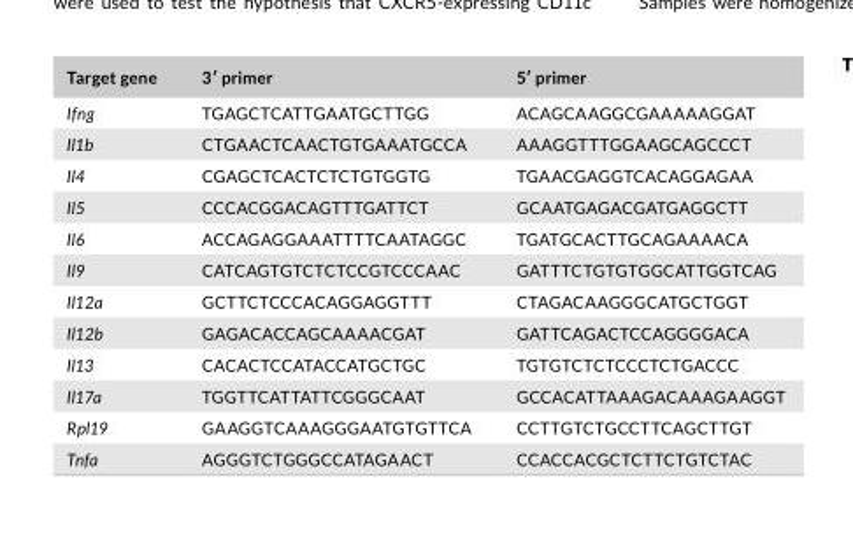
<table><thead><tr><td>Target gene</td><td>3′ primer</td><td>5′ primer</td></tr></thead><tbody><tr><td>Ifng</td><td>TGAGCTCATTGAATGCTTGG</td><td>ACAGCAAGGCGAAAAAGGAT</td></tr><tr><td>Il1b</td><td>CTGAACTCAACTGTGAAATGCCA</td><td>AAAGGTTTGGAAGCAGCCCT</td></tr><tr><td>Il4</td><td>CGAGCTCACTCTCTGTGGTG</td><td>TGAACGAGGTCACAGGAGAA</td></tr><tr><td>Il5</td><td>CCCACGGACAGTTTGATTCT</td><td>GCAATGAGACGATGAGGCTT</td></tr><tr><td>Il6</td><td>ACCAGAGGAAATTTTCAATAGGC</td><td>TGATGCACTTGCAGAAAACA</td></tr><tr><td>Il9</td><td>CATCAGTGTCTCTCCGTCCCAAC</td><td>GATTTCTGTGTGGCATTGGTCAG</td></tr><tr><td>Il12a</td><td>GCTTCTCCCACAGGAGGTTT</td><td>CTAGACAAGGGCATGCTGGT</td></tr><tr><td>Il12b</td><td>GAGACACCAGCAAAACGAT</td><td>GATTCAGACTCCAGGGGACA</td></tr><tr><td>Il13</td><td>CACACTCCATACCATGCTGC</td><td>TGTGTCTCTCCCTCTGACCC</td></tr><tr><td>Il17a</td><td>TGGTTCATTATTCGGGCAAT</td><td>GCCACATTAAAGACAAAGAAGGT</td></tr><tr><td>Rpl19</td><td>GAAGGTCAAAGGGAATGTGTTCA</td><td>CCTTGTCTGCCTTCAGCTTGT</td></tr><tr><td>Tnfa</td><td>AGGGTCTGGGCCATAGAACT</td><td>CCACCACGCTCTTCTGTCTAC</td></tr></tbody></table>